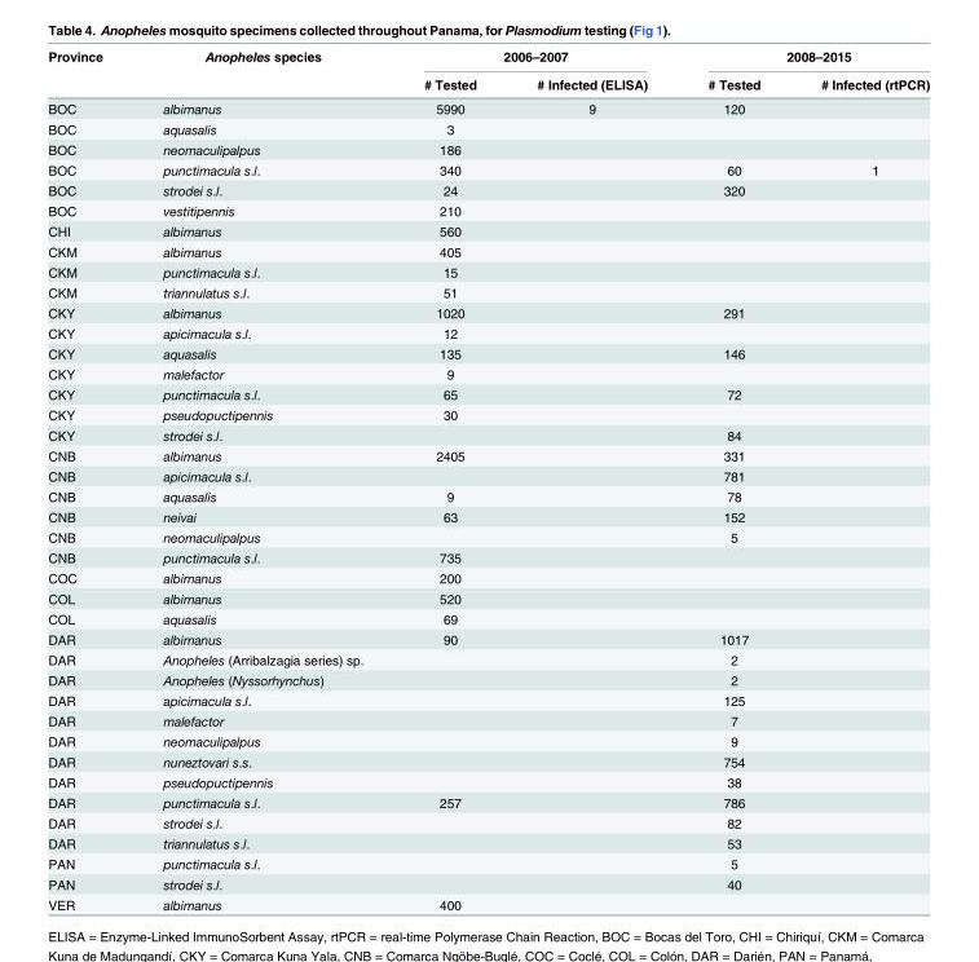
<table><thead><tr><td rowspan="2">Province</td><td rowspan="2">Anopheles species</td><td colspan="2">2006–2007</td><td colspan="2">2008–2015</td></tr><tr><td># Tested</td><td># Infected (ELISA)</td><td># Tested</td><td># Infected (rtPCR)</td></tr></thead><tbody><tr><td>BOC</td><td>albimanus</td><td>5990</td><td>9</td><td>120</td><td></td></tr><tr><td>BOC</td><td>aquasalis</td><td>3</td><td></td><td></td><td></td></tr><tr><td>BOC</td><td>neomaculipalpus</td><td>186</td><td></td><td></td><td></td></tr><tr><td>BOC</td><td>punctimacula s.l.</td><td>340</td><td></td><td>60</td><td>1</td></tr><tr><td>BOC</td><td>strodei s.l.</td><td>24</td><td></td><td>320</td><td></td></tr><tr><td>BOC</td><td>vestitipennis</td><td>210</td><td></td><td></td><td></td></tr><tr><td>CHI</td><td>albimanus</td><td>560</td><td></td><td></td><td></td></tr><tr><td>CKM</td><td>albimanus</td><td>405</td><td></td><td></td><td></td></tr><tr><td>CKM</td><td>punctimacula s.l.</td><td>15</td><td></td><td></td><td></td></tr><tr><td>CKM</td><td>triannulatus s.l.</td><td>51</td><td></td><td></td><td></td></tr><tr><td>CKY</td><td>albimanus</td><td>1020</td><td></td><td>291</td><td></td></tr><tr><td>CKY</td><td>apicimacula s.l.</td><td>12</td><td></td><td></td><td></td></tr><tr><td>CKY</td><td>aquasalis</td><td>135</td><td></td><td>146</td><td></td></tr><tr><td>CKY</td><td>malefactor</td><td>9</td><td></td><td></td><td></td></tr><tr><td>CKY</td><td>punctimacula s.l.</td><td>65</td><td></td><td>72</td><td></td></tr><tr><td>CKY</td><td>pseudopuctipennis</td><td>30</td><td></td><td></td><td></td></tr><tr><td>CKY</td><td>strodei s.l.</td><td></td><td></td><td>84</td><td></td></tr><tr><td>CNB</td><td>albimanus</td><td>2405</td><td></td><td>331</td><td></td></tr><tr><td>CNB</td><td>apicimacula s.l.</td><td></td><td></td><td>781</td><td></td></tr><tr><td>CNB</td><td>aquasalis</td><td>9</td><td></td><td>78</td><td></td></tr><tr><td>CNB</td><td>neivai</td><td>63</td><td></td><td>152</td><td></td></tr><tr><td>CNB</td><td>neomaculipalpus</td><td></td><td></td><td>5</td><td></td></tr><tr><td>CNB</td><td>punctimacula s.l.</td><td>735</td><td></td><td></td><td></td></tr><tr><td>COC</td><td>albimanus</td><td>200</td><td></td><td></td><td></td></tr><tr><td>COL</td><td>albimanus</td><td>520</td><td></td><td></td><td></td></tr><tr><td>COL</td><td>aquasalis</td><td>69</td><td></td><td></td><td></td></tr><tr><td>DAR</td><td>albimanus</td><td>90</td><td></td><td>1017</td><td></td></tr><tr><td>DAR</td><td>Anopheles (Arribalzagia series) sp.</td><td></td><td></td><td>2</td><td></td></tr><tr><td>DAR</td><td>Anopheles (Nyssorhynchus)</td><td></td><td></td><td>2</td><td></td></tr><tr><td>DAR</td><td>apicimacula s.l.</td><td></td><td></td><td>125</td><td></td></tr><tr><td>DAR</td><td>malefactor</td><td></td><td></td><td>7</td><td></td></tr><tr><td>DAR</td><td>neomaculipalpus</td><td></td><td></td><td>9</td><td></td></tr><tr><td>DAR</td><td>nuneztovari s.s.</td><td></td><td></td><td>754</td><td></td></tr><tr><td>DAR</td><td>pseudopuctipennis</td><td></td><td></td><td>38</td><td></td></tr><tr><td>DAR</td><td>punctimacula s.l.</td><td>257</td><td></td><td>786</td><td></td></tr><tr><td>DAR</td><td>strodei s.l.</td><td></td><td></td><td>82</td><td></td></tr><tr><td>DAR</td><td>triannulatus s.l.</td><td></td><td></td><td>53</td><td></td></tr><tr><td>PAN</td><td>punctimacula s.l.</td><td></td><td></td><td>5</td><td></td></tr><tr><td>PAN</td><td>strodei s.l.</td><td></td><td></td><td>40</td><td></td></tr><tr><td>VER</td><td>albimanus</td><td>400</td><td></td><td></td><td></td></tr></tbody></table>